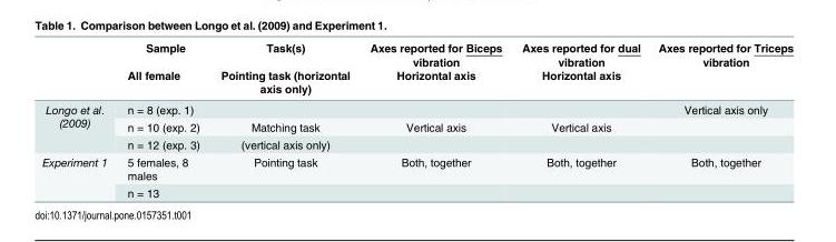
<table><thead><tr><td rowspan="2"></td><td rowspan="2">Sample All female</td><td rowspan="2">Task(s) Pointing task (horizontal axis only)</td><td rowspan="2">Axes reported for Biceps vibration Horizontal axis</td><td rowspan="2">Axes reported for dual vibration Horizontal axis</td><td rowspan="2">Axes reported for Triceps vibration</td></tr><tr></tr></thead><tbody><tr><td rowspan="3">Longo et al. (2009)</td><td>n = 8 (exp. 1)</td><td></td><td></td><td></td><td>Vertical axis only</td></tr><tr><td>n = 10 (exp. 2)</td><td>Matching task</td><td>Vertical axis</td><td>Vertical axis</td><td></td></tr><tr><td>n = 12 (exp. 3)</td><td>(vertical axis only)</td><td></td><td></td><td></td></tr><tr><td rowspan="2">Experiment 1</td><td>5 females, 8 males</td><td>Pointing task</td><td>Both, together</td><td>Both, together</td><td>Both, together</td></tr><tr><td>n = 13</td><td></td><td></td><td></td><td></td></tr></tbody></table>